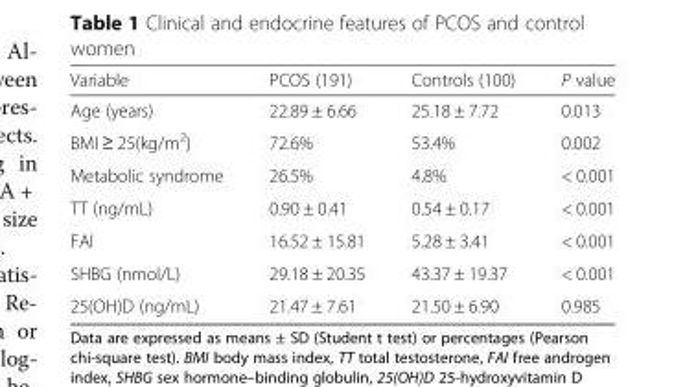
<table><thead><tr><td>Variable</td><td>PCOS (191)</td><td>Controls (100)</td><td>P value</td></tr></thead><tbody><tr><td>Age (years)</td><td>22.89 ± 6.66</td><td>25.18 ± 7.72</td><td>0.013</td></tr><tr><td>BMI ≥ 25(kg/m<sup>2</sup>)</td><td>72.6%</td><td>53.4%</td><td>0.002</td></tr><tr><td>Metabolic syndrome</td><td>26.5%</td><td>4.8%</td><td>&lt; 0.001</td></tr><tr><td>TT (ng/mL)</td><td>0.90 ± 0.41</td><td>0.54 ± 0.17</td><td>&lt; 0.001</td></tr><tr><td>FAI</td><td>16.52 ± 15.81</td><td>5.28 ± 3.41</td><td>&lt; 0.001</td></tr><tr><td>SHBG (nmol/L)</td><td>29.18 ± 20.35</td><td>43.37 ± 19.37</td><td>&lt; 0.001</td></tr><tr><td>25(OH)D (ng/mL)</td><td>21.47 ± 7.61</td><td>21.50 ± 6.90</td><td>0.985</td></tr></tbody></table>